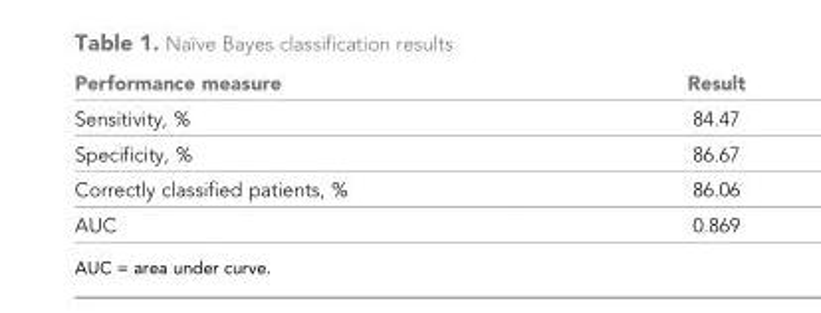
<table><thead><tr><td>Performance measure</td><td>Result</td></tr></thead><tbody><tr><td>Sensitivity, %</td><td>84.47</td></tr><tr><td>Specificity, %</td><td>86.67</td></tr><tr><td>Correctly classified patients, %</td><td>86.06</td></tr><tr><td>AUC</td><td>0.869</td></tr></tbody></table>